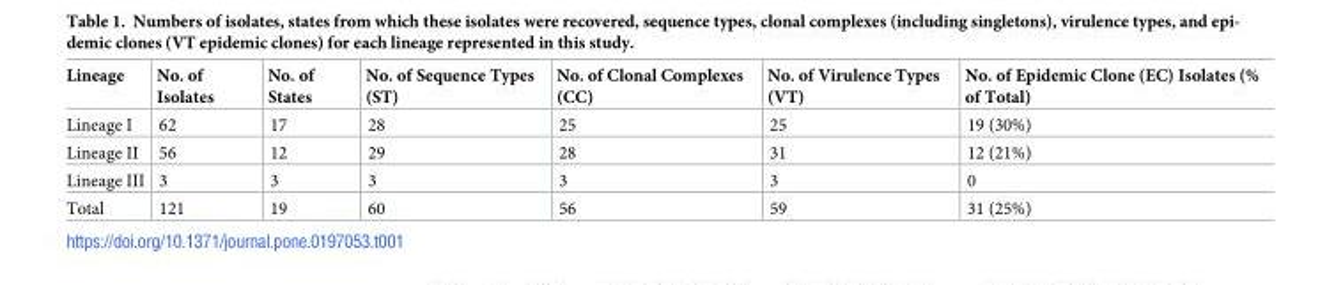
<table><thead><tr><td>Lineage</td><td>No. of Isolates</td><td>No. of States</td><td>No. of Sequence Types (ST)</td><td>No. of Clonal Complexes (CC)</td><td>No. of Virulence Types (VT)</td><td>No. of Epidemic Clone (EC) Isolates (% of Total)</td></tr></thead><tbody><tr><td>Lineage I</td><td>62</td><td>17</td><td>28</td><td>25</td><td>25</td><td>19 (30%)</td></tr><tr><td>Lineage II</td><td>56</td><td>12</td><td>29</td><td>28</td><td>31</td><td>12 (21%)</td></tr><tr><td>Lineage III</td><td>3</td><td>3</td><td>3</td><td>3</td><td>3</td><td>0</td></tr><tr><td>Total</td><td>121</td><td>19</td><td>60</td><td>56</td><td>59</td><td>31 (25%)</td></tr></tbody></table>